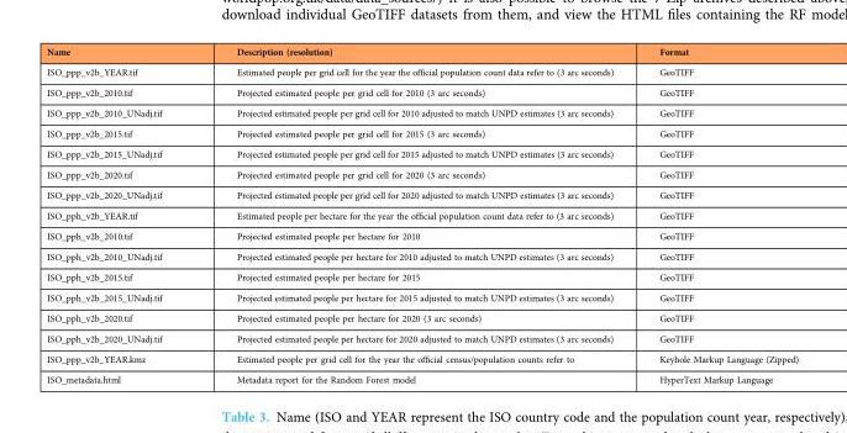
<table><thead><tr><td>Name</td><td>Description (resolution)</td><td>Format</td></tr></thead><tbody><tr><td>ISO_ppp_v2b_YEAR.tif</td><td>Estimated people per grid cell for the year the official population count data refer to (3 arc seconds)</td><td>GeoTIFF</td></tr><tr><td>ISO_ppp_v2b_2010.tif</td><td>Projected estimated people per grid cell for 2010 (3 arc seconds)</td><td>GeoTIFF</td></tr><tr><td>ISO_ppp_v2b_2010_UNadj.tif</td><td>Projected estimated people per grid cell for 2010 adjusted to match UNPD estimates (3 arc seconds)</td><td>GeoTIFF</td></tr><tr><td>ISO_ppp_v2b_2015.tif</td><td>Projected estimated people per grid cell for 2015 (3 arc seconds)</td><td>GeoTIFF</td></tr><tr><td>ISO_ppp_v2b_2015_UNadj.tif</td><td>Projected estimated people per grid cell for 2015 adjusted to match UNPD estimates (3 arc seconds)</td><td>GeoTIFF</td></tr><tr><td>ISO_ppp_v2b_2020.tif</td><td>Projected estimated people per grid cell for 2020 (3 arc seconds)</td><td>GeoTIFF</td></tr><tr><td>ISO_ppp_v2b_2020_UNadj.tif</td><td>Projected estimated people per grid cell for 2020 adjusted to match UNPD estimates (3 arc seconds)</td><td>GeoTIFF</td></tr><tr><td>ISO_pph_v2b_YEAR.tif</td><td>Estimated people per hectare for the year the official population count data refer to (3 arc seconds)</td><td>GeoTIFF</td></tr><tr><td>ISO_pph_v2b_2010.tif</td><td>Projected estimated people per hectare for 2010</td><td>GeoTIFF</td></tr><tr><td>ISO_pph_v2b_2010_UNadj.tif</td><td>Projected estimated people per hectare for 2010 adjusted to match UNPD estimates (3 arc seconds)</td><td>GeoTIFF</td></tr><tr><td>ISO_pph_v2b_2015.tif</td><td>Projected estimated people per hectare for 2015</td><td>GeoTIFF</td></tr><tr><td>ISO_pph_v2b_2015_UNadj.tif</td><td>Projected estimated people per hectare for 2015 adjusted to match UNPD estimates (3 arc seconds)</td><td>GeoTIFF</td></tr><tr><td>ISO_pph_v2b_2020.tif</td><td>Projected estimated people per hectare for 2020 (3 arc seconds)</td><td>GeoTIFF</td></tr><tr><td>ISO_pph_v2b_2020_UNadj.tif</td><td>Projected estimated people per hectare for 2020 adjusted to match UNPD estimates (3 arc seconds)</td><td>GeoTIFF</td></tr><tr><td>ISO_ppp_v2b_YEAR.kmz</td><td>Estimated people per grid cell for the year the official census/population counts refer to</td><td>Keyhole Markup Language (Zipped)</td></tr><tr><td>ISO_metadata.html</td><td>Metadata report for the Random Forest model</td><td>HyperText Markup Language</td></tr></tbody></table>